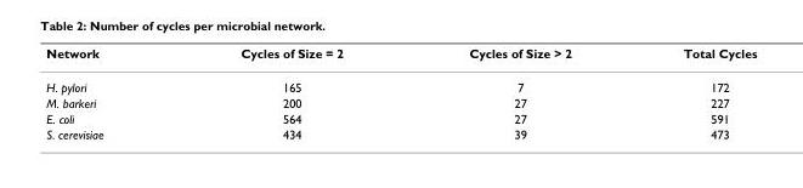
<table><thead><tr><td>Network</td><td>Cycles of Size = 2</td><td>Cycles of Size &gt; 2</td><td>Total Cycles</td></tr></thead><tbody><tr><td>H. pylori</td><td>165</td><td>7</td><td>172</td></tr><tr><td>M. barkeri</td><td>200</td><td>27</td><td>227</td></tr><tr><td>E. coli</td><td>564</td><td>27</td><td>591</td></tr><tr><td>S. cerevisiae</td><td>434</td><td>39</td><td>473</td></tr></tbody></table>